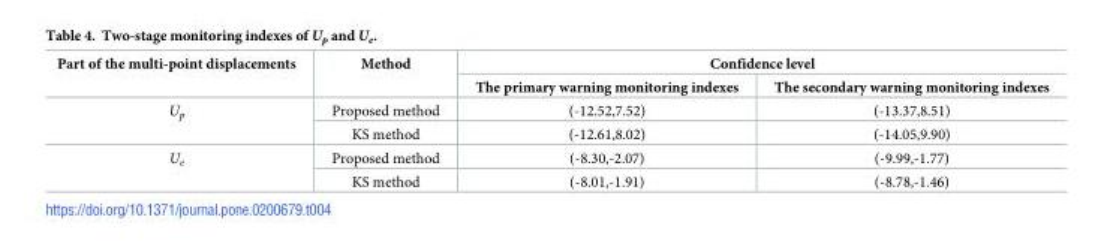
<table><thead><tr><td rowspan="2">Part of the multi-point displacements</td><td rowspan="2">Method</td><td colspan="2">Confidence level</td></tr><tr><td>The primary warning monitoring indexes</td><td>The secondary warning monitoring indexes</td></tr></thead><tbody><tr><td rowspan="2">U<sub>p</sub></td><td>Proposed method</td><td>(-12.52,7.52)</td><td>(-13.37,8.51)</td></tr><tr><td>KS method</td><td>(-12.61,8.02)</td><td>(-14.05,9.90)</td></tr><tr><td rowspan="2">U<sub>e</sub></td><td>Proposed method</td><td>(-8.30,-2.07)</td><td>(-9.99,-1.77)</td></tr><tr><td>KS method</td><td>(-8.01,-1.91)</td><td>(-8.78,-1.46)</td></tr></tbody></table>